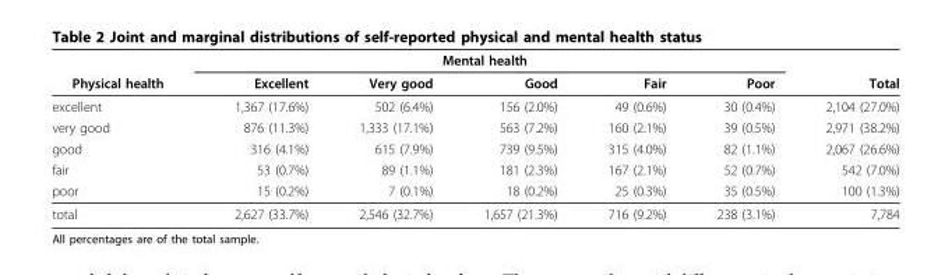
<table><thead><tr><td rowspan="2">Physical health</td><td colspan="5">Mental health</td><td rowspan="2">Total</td></tr><tr><td>Excellent</td><td>Very good</td><td>Good</td><td>Fair</td><td>Poor</td></tr></thead><tbody><tr><td>excellent</td><td>1,367 (17.6%)</td><td>502 (6.4%)</td><td>156 (2.0%)</td><td>49 (0.6%)</td><td>30 (0.4%)</td><td>2,104 (27.0%)</td></tr><tr><td>very good</td><td>876 (11.3%)</td><td>1,333 (17.1%)</td><td>563 (7.2%)</td><td>160 (2.1%)</td><td>39 (0.5%)</td><td>2,971 (38.2%)</td></tr><tr><td>good</td><td>316 (4.1%)</td><td>615 (7.9%)</td><td>739 (9.5%)</td><td>315 (4.0%)</td><td>82 (1.1%)</td><td>2,067 (26.6%)</td></tr><tr><td>fair</td><td>53 (0.7%)</td><td>89 (1.1%)</td><td>181 (2.3%)</td><td>167 (2.1%)</td><td>52 (0.7%)</td><td>542 (7.0%)</td></tr><tr><td>poor</td><td>15 (0.2%)</td><td>7 (0.1%)</td><td>18 (0.2%)</td><td>25 (0.3%)</td><td>35 (0.5%)</td><td>100 (1.3%)</td></tr><tr><td>total</td><td>2,627 (33.7%)</td><td>2,546 (32.7%)</td><td>1,657 (21.3%)</td><td>716 (9.2%)</td><td>238 (3.1%)</td><td>7,784</td></tr></tbody></table>